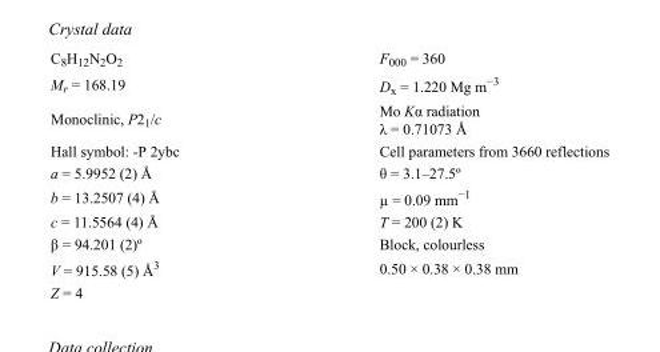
<table><tbody><tr><td>C<sub>8</sub>H<sub>12</sub>N<sub>2</sub>O<sub>2</sub></td><td>F000 = 360</td></tr><tr><td>M<sub>r</sub> = 168.19</td><td>D<sub>x</sub> = 1.220 Mg m<sup>−3</sup></td></tr><tr><td>Monoclinic, P2<sub>1</sub>/c</td><td>Mo Kα radiation λ = 0.71073 Å</td></tr><tr><td>Hall symbol: -P 2ybc</td><td>Cell parameters from 3660 reflections</td></tr><tr><td>a = 5.9952 (2) Å</td><td>θ = 3.1–27.5º</td></tr><tr><td>b = 13.2507 (4) Å</td><td>µ = 0.09 mm<sup>−1</sup></td></tr><tr><td>c = 11.5564 (4) Å</td><td>T = 200 (2) K</td></tr><tr><td>β = 94.201 (2)º</td><td>Block, colourless</td></tr><tr><td>V = 915.58 (5) Å<sup>3</sup></td><td>0.50 × 0.38 × 0.38 mm</td></tr><tr><td>Z = 4</td><td></td></tr></tbody></table>